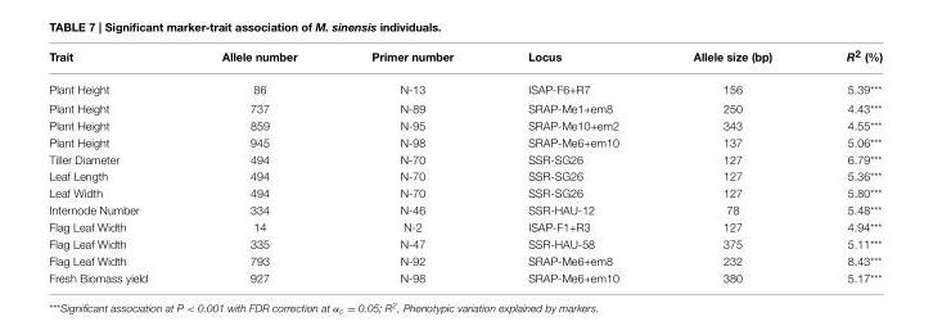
<table><thead><tr><td>Trait</td><td>Allele number</td><td>Primer number</td><td>Locus</td><td>Allele size (bp)</td><td>R<sup>2</sup> (%)</td></tr></thead><tbody><tr><td>Plant Height</td><td>86</td><td>N-13</td><td>ISAP-F6+R7</td><td>156</td><td>5.39***</td></tr><tr><td>Plant Height</td><td>737</td><td>N-89</td><td>SRAP-Me1+em8</td><td>250</td><td>4.43***</td></tr><tr><td>Plant Height</td><td>859</td><td>N-95</td><td>SRAP-Me10+em2</td><td>343</td><td>4.55***</td></tr><tr><td>Plant Height</td><td>945</td><td>N-98</td><td>SRAP-Me6+em10</td><td>137</td><td>5.06***</td></tr><tr><td>Tiller Diameter</td><td>494</td><td>N-70</td><td>SSR-SG26</td><td>127</td><td>6.79***</td></tr><tr><td>Leaf Length</td><td>494</td><td>N-70</td><td>SSR-SG26</td><td>127</td><td>5.36***</td></tr><tr><td>Leaf Width</td><td>494</td><td>N-70</td><td>SSR-SG26</td><td>127</td><td>5.80***</td></tr><tr><td>Internode Number</td><td>334</td><td>N-46</td><td>SSR-HAU-12</td><td>78</td><td>5.48***</td></tr><tr><td>Flag Leaf Width</td><td>14</td><td>N-2</td><td>ISAP-F1+R3</td><td>127</td><td>4.94***</td></tr><tr><td>Flag Leaf Width</td><td>335</td><td>N-47</td><td>SSR-HAU-58</td><td>375</td><td>5.11***</td></tr><tr><td>Flag Leaf Width</td><td>793</td><td>N-92</td><td>SRAP-Me6+em8</td><td>232</td><td>8.43***</td></tr><tr><td>Fresh Biomass yield</td><td>927</td><td>N-98</td><td>SRAP-Me6+em10</td><td>380</td><td>5.17***</td></tr></tbody></table>